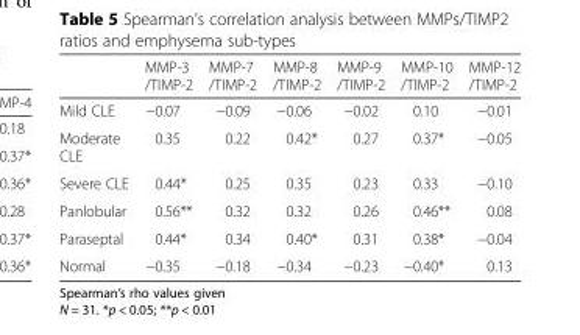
<table><thead><tr><td></td><td>MMP-3 /TIMP-2</td><td>MMP-7 /TIMP-2</td><td>MMP-8 /TIMP-2</td><td>MMP-9 /TIMP-2</td><td>MMP-10 /TIMP-2</td><td>MMP-12 /TIMP-2</td></tr></thead><tbody><tr><td>Mild CLE</td><td>−0.07</td><td>−0.09</td><td>−0.06</td><td>−0.02</td><td>0.10</td><td>−0.01</td></tr><tr><td>Moderate CLE</td><td>0.35</td><td>0.22</td><td>0.42*</td><td>0.27</td><td>0.37*</td><td>−0.05</td></tr><tr><td>Severe CLE</td><td>0.44*</td><td>0.25</td><td>0.35</td><td>0.23</td><td>0.33</td><td>−0.10</td></tr><tr><td>Panlobular</td><td>0.56**</td><td>0.32</td><td>0.32</td><td>0.26</td><td>0.46**</td><td>0.08</td></tr><tr><td>Paraseptal</td><td>0.44*</td><td>0.34</td><td>0.40*</td><td>0.31</td><td>0.38*</td><td>−0.04</td></tr><tr><td>Normal</td><td>−0.35</td><td>−0.18</td><td>−0.34</td><td>−0.23</td><td>−0.40*</td><td>0.13</td></tr></tbody></table>